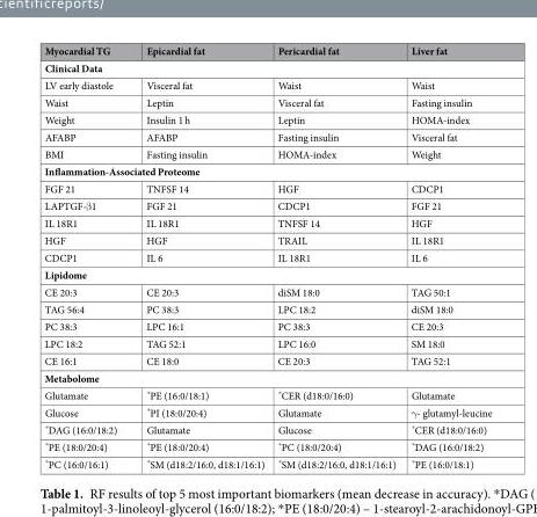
<table><thead><tr><td>Myocardial TG</td><td>Epicardial fat</td><td>Pericardial fat</td><td>Liver fat</td></tr></thead><tbody><tr><td colspan="4">Clinical Data</td></tr><tr><td>LV early diastole</td><td>Visceral fat</td><td>Waist</td><td>Waist</td></tr><tr><td>Waist</td><td>Leptin</td><td>Visceral fat</td><td>Fasting insulin</td></tr><tr><td>Weight</td><td>Insulin 1 h</td><td>Leptin</td><td>HOMA-index</td></tr><tr><td>AFABP</td><td>AFABP</td><td>Fasting insulin</td><td>Visceral fat</td></tr><tr><td>BMI</td><td>Fasting insulin</td><td>HOMA-index</td><td>Weight</td></tr><tr><td colspan="4">Inflammation-Associated Proteome</td></tr><tr><td>FGF 21</td><td>TNFSF 14</td><td>HGF</td><td>CDCP1</td></tr><tr><td>LAPTGF-β1</td><td>FGF 21</td><td>CDCP1</td><td>FGF 21</td></tr><tr><td>IL 18R1</td><td>IL 18R1</td><td>TNFSF 14</td><td>HGF</td></tr><tr><td>HGF</td><td>HGF</td><td>TRAIL</td><td>IL 18R1</td></tr><tr><td>CDCP1</td><td>IL 6</td><td>IL 18R1</td><td>IL 6</td></tr><tr><td colspan="4">Lipidome</td></tr><tr><td>CE 20:3</td><td>CE 20:3</td><td>diSM 18:0</td><td>TAG 50:1</td></tr><tr><td>TAG 56:4</td><td>PC 38:3</td><td>LPC 18:2</td><td>diSM 18:0</td></tr><tr><td>PC 38:3</td><td>LPC 16:1</td><td>PC 38:3</td><td>CE 20:3</td></tr><tr><td>LPC 18:2</td><td>TAG 52:1</td><td>LPC 16:0</td><td>SM 18:0</td></tr><tr><td>CE 16:1</td><td>CE 18:0</td><td>CE 20:3</td><td>TAG 52:1</td></tr><tr><td colspan="4">Metabolome</td></tr><tr><td>Glutamate</td><td>*PE (16:0/18:1)</td><td>*CER (d18:0/16:0)</td><td>Glutamate</td></tr><tr><td>Glucose</td><td>*PI (18:0/20:4)</td><td>Glutamate</td><td>γ- glutamyl-leucine</td></tr><tr><td>*DAG (16:0/18:2)</td><td>Glutamate</td><td>Glucose</td><td>*CER (d18:0/16:0)</td></tr><tr><td>*PE (18:0/20:4)</td><td>*PE (18:0/20:4)</td><td>*PC (18:0/20:4)</td><td>*DAG (16:0/18:2)</td></tr><tr><td>*PC (16:0/16:1)</td><td>*SM (d18:2/16:0, d18:1/16:1)</td><td>*SM (d18:2/16:0, d18:1/16:1)</td><td>*PE (16:0/18:1)</td></tr></tbody></table>